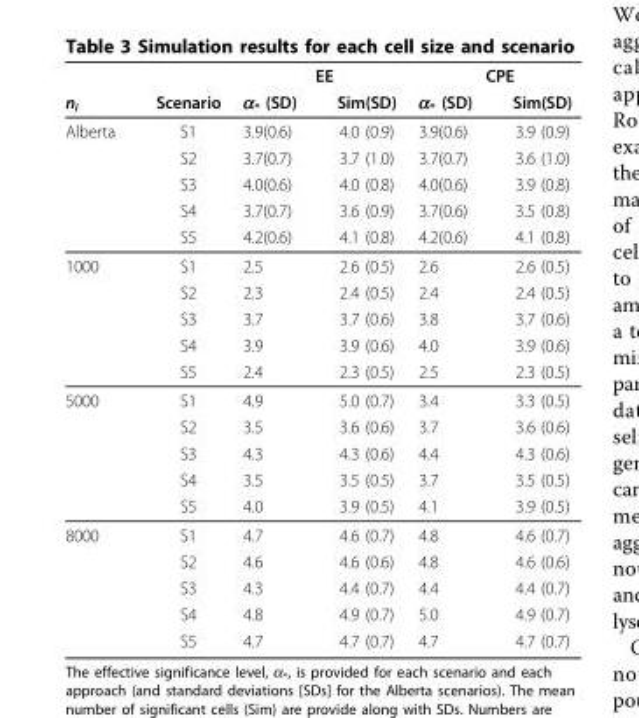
<table><thead><tr><td rowspan="2">n<sub>i</sub></td><td rowspan="2">Scenario</td><td colspan="2">EE</td><td colspan="2">CPE</td></tr><tr><td>α<sub>*</sub> (SD)</td><td>Sim(SD)</td><td>α<sub>*</sub> (SD)</td><td>Sim(SD)</td></tr></thead><tbody><tr><td rowspan="5">Alberta</td><td>S1</td><td>3.9(0.6)</td><td>4.0 (0.9)</td><td>3.9(0.6)</td><td>3.9 (0.9)</td></tr><tr><td>S2</td><td>3.7(0.7)</td><td>3.7 (1.0)</td><td>3.7(0.7)</td><td>3.6 (1.0)</td></tr><tr><td>S3</td><td>4.0(0.6)</td><td>4.0 (0.8)</td><td>4.0(0.6)</td><td>3.9 (0.8)</td></tr><tr><td>S4</td><td>3.7(0.7)</td><td>3.6 (0.9)</td><td>3.7(0.6)</td><td>3.5 (0.8)</td></tr><tr><td>S5</td><td>4.2(0.6)</td><td>4.1 (0.8)</td><td>4.2(0.6)</td><td>4.1 (0.8)</td></tr><tr><td rowspan="5">1000</td><td>S1</td><td>2.5</td><td>2.6 (0.5)</td><td>2.6</td><td>2.6 (0.5)</td></tr><tr><td>S2</td><td>2.3</td><td>2.4 (0.5)</td><td>2.4</td><td>2.4 (0.5)</td></tr><tr><td>S3</td><td>3.7</td><td>3.7 (0.6)</td><td>3.8</td><td>3.7 (0.6)</td></tr><tr><td>S4</td><td>3.9</td><td>3.9 (0.6)</td><td>4.0</td><td>3.9 (0.6)</td></tr><tr><td>S5</td><td>2.4</td><td>2.3 (0.5)</td><td>2.5</td><td>2.3 (0.5)</td></tr><tr><td rowspan="5">5000</td><td>S1</td><td>4.9</td><td>5.0 (0.7)</td><td>3.4</td><td>3.3 (0.5)</td></tr><tr><td>S2</td><td>3.5</td><td>3.6 (0.6)</td><td>3.7</td><td>3.6 (0.6)</td></tr><tr><td>S3</td><td>4.3</td><td>4.3 (0.6)</td><td>4.4</td><td>4.3 (0.6)</td></tr><tr><td>S4</td><td>3.5</td><td>3.5 (0.5)</td><td>3.7</td><td>3.5 (0.5)</td></tr><tr><td>S5</td><td>4.0</td><td>3.9 (0.5)</td><td>4.1</td><td>3.9 (0.5)</td></tr><tr><td rowspan="5">8000</td><td>S1</td><td>4.7</td><td>4.6 (0.7)</td><td>4.8</td><td>4.6 (0.7)</td></tr><tr><td>S2</td><td>4.6</td><td>4.6 (0.6)</td><td>4.8</td><td>4.6 (0.6)</td></tr><tr><td>S3</td><td>4.3</td><td>4.4 (0.7)</td><td>4.4</td><td>4.4 (0.7)</td></tr><tr><td>S4</td><td>4.8</td><td>4.9 (0.7)</td><td>5.0</td><td>4.9 (0.7)</td></tr><tr><td>S5</td><td>4.7</td><td>4.7 (0.7)</td><td>4.7</td><td>4.7 (0.7)</td></tr></tbody></table>